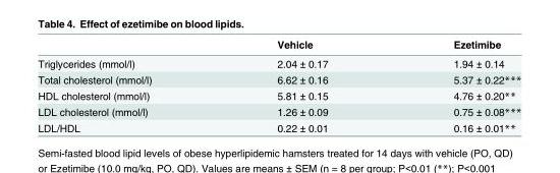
<table><thead><tr><td></td><td>Vehicle</td><td>Ezetimibe</td></tr></thead><tbody><tr><td>Triglycerides (mmol/l)</td><td>2.04 ± 0.17</td><td>1.94 ± 0.14</td></tr><tr><td>Total cholesterol (mmol/l)</td><td>6.62 ± 0.16</td><td>5.37 ± 0.22***</td></tr><tr><td>HDL cholesterol (mmol/l)</td><td>5.81 ± 0.15</td><td>4.76 ± 0.20**</td></tr><tr><td>LDL cholesterol (mmol/l)</td><td>1.26 ± 0.09</td><td>0.75 ± 0.08***</td></tr><tr><td>LDL/HDL</td><td>0.22 ± 0.01</td><td>0.16 ± 0.01**</td></tr></tbody></table>